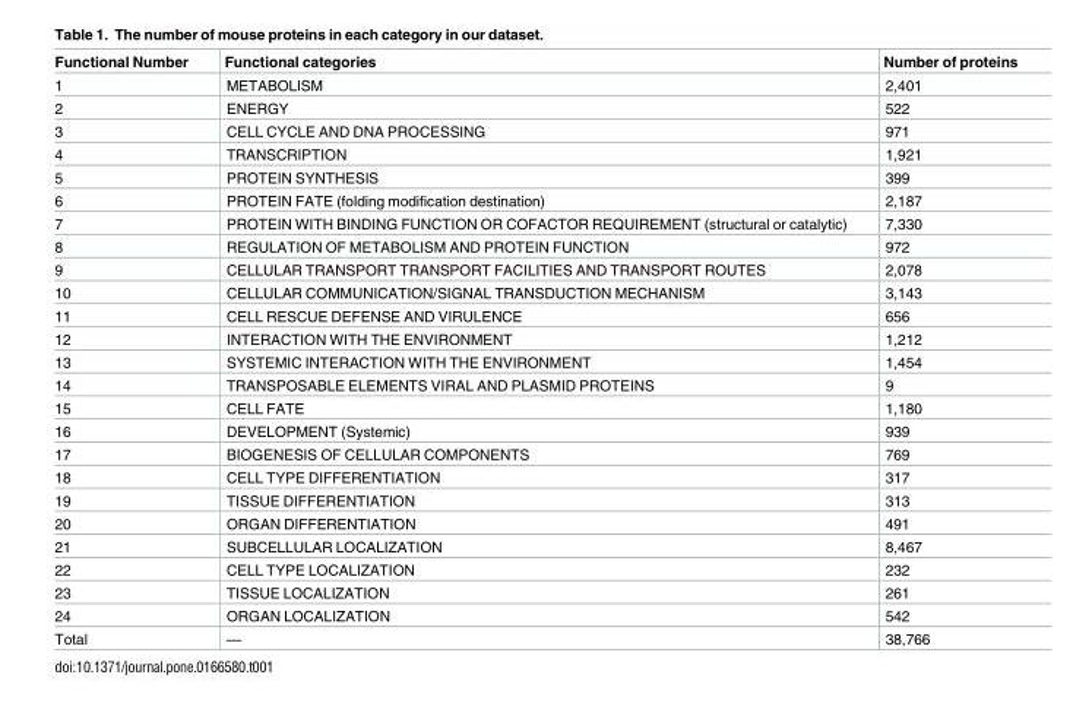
<table><thead><tr><td>Functional Number</td><td>Functional categories</td><td>Number of proteins</td></tr></thead><tbody><tr><td>1</td><td>METABOLISM</td><td>2,401</td></tr><tr><td>2</td><td>ENERGY</td><td>522</td></tr><tr><td>3</td><td>CELL CYCLE AND DNA PROCESSING</td><td>971</td></tr><tr><td>4</td><td>TRANSCRIPTION</td><td>1,921</td></tr><tr><td>5</td><td>PROTEIN SYNTHESIS</td><td>399</td></tr><tr><td>6</td><td>PROTEIN FATE (folding modification destination)</td><td>2,187</td></tr><tr><td>7</td><td>PROTEIN WITH BINDING FUNCTION OR COFACTOR REQUIREMENT (structural or catalytic)</td><td>7,330</td></tr><tr><td>8</td><td>REGULATION OF METABOLISM AND PROTEIN FUNCTION</td><td>972</td></tr><tr><td>9</td><td>CELLULAR TRANSPORT TRANSPORT FACILITIES AND TRANSPORT ROUTES</td><td>2,078</td></tr><tr><td>10</td><td>CELLULAR COMMUNICATION/SIGNAL TRANSDUCTION MECHANISM</td><td>3,143</td></tr><tr><td>11</td><td>CELL RESCUE DEFENSE AND VIRULENCE</td><td>656</td></tr><tr><td>12</td><td>INTERACTION WITH THE ENVIRONMENT</td><td>1,212</td></tr><tr><td>13</td><td>SYSTEMIC INTERACTION WITH THE ENVIRONMENT</td><td>1,454</td></tr><tr><td>14</td><td>TRANSPOSABLE ELEMENTS VIRAL AND PLASMID PROTEINS</td><td>9</td></tr><tr><td>15</td><td>CELL FATE</td><td>1,180</td></tr><tr><td>16</td><td>DEVELOPMENT (Systemic)</td><td>939</td></tr><tr><td>17</td><td>BIOGENESIS OF CELLULAR COMPONENTS</td><td>769</td></tr><tr><td>18</td><td>CELL TYPE DIFFERENTIATION</td><td>317</td></tr><tr><td>19</td><td>TISSUE DIFFERENTIATION</td><td>313</td></tr><tr><td>20</td><td>ORGAN DIFFERENTIATION</td><td>491</td></tr><tr><td>21</td><td>SUBCELLULAR LOCALIZATION</td><td>8,467</td></tr><tr><td>22</td><td>CELL TYPE LOCALIZATION</td><td>232</td></tr><tr><td>23</td><td>TISSUE LOCALIZATION</td><td>261</td></tr><tr><td>24</td><td>ORGAN LOCALIZATION</td><td>542</td></tr><tr><td>Total</td><td>—</td><td>38,766</td></tr></tbody></table>